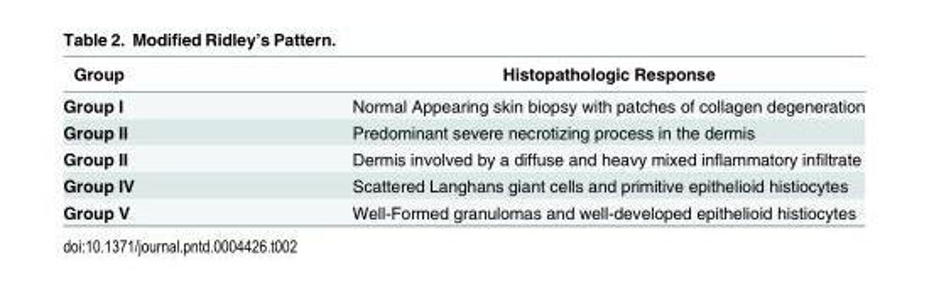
<table><thead><tr><td>Group</td><td>Histopathologic Response</td></tr></thead><tbody><tr><td>Group I</td><td>Normal Appearing skin biopsy with patches of collagen degeneration</td></tr><tr><td>Group II</td><td>Predominant severe necrotizing process in the dermis</td></tr><tr><td>Group II</td><td>Dermis involved by a diffuse and heavy mixed inflammatory infiltrate</td></tr><tr><td>Group IV</td><td>Scattered Langhans giant cells and primitive epithelioid histiocytes</td></tr><tr><td>Group V</td><td>Well-Formed granulomas and well-developed epithelioid histiocytes</td></tr></tbody></table>